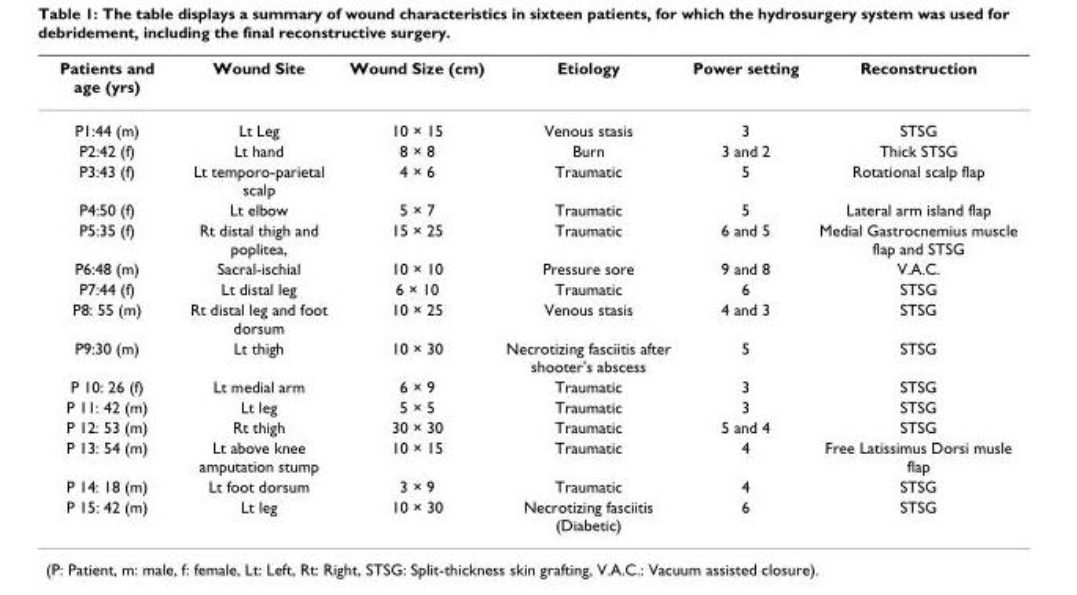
<table><thead><tr><td>Patients and age (yrs)</td><td>Wound Site</td><td>Wound Size (cm)</td><td>Etiology</td><td>Power setting</td><td>Reconstruction</td></tr></thead><tbody><tr><td>P1:44 (m)</td><td>Lt Leg</td><td>10 × 15</td><td>Venous stasis</td><td>3</td><td>STSG</td></tr><tr><td>P2:42 (f)</td><td>Lt hand</td><td>8 × 8</td><td>Burn</td><td>3 and 2</td><td>Thick STSG</td></tr><tr><td>P3:43 (f)</td><td>Lt temporo-parietal scalp</td><td>4 × 6</td><td>Traumatic</td><td>5</td><td>Rotational scalp flap</td></tr><tr><td>P4:50 (f)</td><td>Lt elbow</td><td>5 × 7</td><td>Traumatic</td><td>5</td><td>Lateral arm island flap</td></tr><tr><td>P5:35 (f)</td><td>Rt distal thigh and poplitea,</td><td>15 × 25</td><td>Traumatic</td><td>6 and 5</td><td>Medial Gastrocnemius muscle flap and STSG</td></tr><tr><td>P6:48 (m)</td><td>Sacral-ischial</td><td>10 × 10</td><td>Pressure sore</td><td>9 and 8</td><td>V.A.C.</td></tr><tr><td>P7:44 (f)</td><td>Lt distal leg</td><td>6 × 10</td><td>Traumatic</td><td>6</td><td>STSG</td></tr><tr><td>P8: 55 (m)</td><td>Rt distal leg and foot dorsum</td><td>10 × 25</td><td>Venous stasis</td><td>4 and 3</td><td>STSG</td></tr><tr><td>P9:30 (m)</td><td>Lt thigh</td><td>10 × 30</td><td>Necrotizing fasciitis after shooter&#x27;s abscess</td><td>5</td><td>STSG</td></tr><tr><td>P 10: 26 (f)</td><td>Lt medial arm</td><td>6 × 9</td><td>Traumatic</td><td>3</td><td>STSG</td></tr><tr><td>P 11: 42 (m)</td><td>Lt leg</td><td>5 × 5</td><td>Traumatic</td><td>3</td><td>STSG</td></tr><tr><td>P 12: 53 (m)</td><td>Rt thigh</td><td>30 × 30</td><td>Traumatic</td><td>5 and 4</td><td>STSG</td></tr><tr><td>P 13: 54 (m)</td><td>Lt above knee amputation stump</td><td>10 × 15</td><td>Traumatic</td><td>4</td><td>Free Latissimus Dorsi musle flap</td></tr><tr><td>P 14: 18 (m)</td><td>Lt foot dorsum</td><td>3 × 9</td><td>Traumatic</td><td>4</td><td>STSG</td></tr><tr><td>P 15: 42 (m)</td><td>Lt leg</td><td>10 × 30</td><td>Necrotizing fasciitis (Diabetic)</td><td>6</td><td>STSG</td></tr></tbody></table>